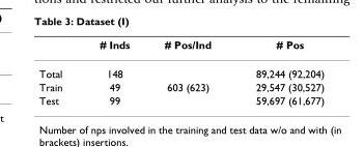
<table><thead><tr><td></td><td># Inds</td><td># Pos/Ind</td><td># Pos</td></tr></thead><tbody><tr><td>Total</td><td>148</td><td></td><td>89,244 (92,204)</td></tr><tr><td>Train</td><td>49</td><td>603 (623)</td><td>29,547 (30,527)</td></tr><tr><td>Test</td><td>99</td><td></td><td>59,697 (61,677)</td></tr></tbody></table>